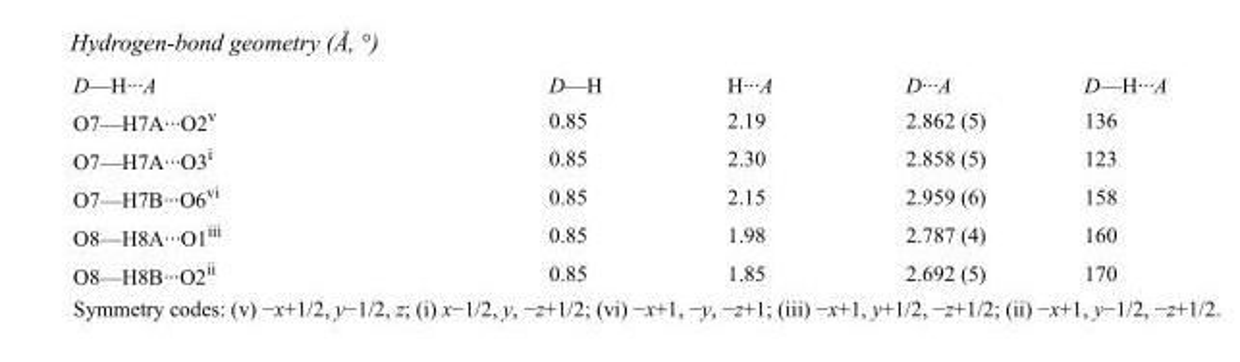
<table><tbody><tr><td>D—H···A</td><td>D—H</td><td>H···A</td><td>D···A</td><td>D—H···A</td></tr><tr><td>O7—H7A···O2<sup>v</sup></td><td>0.85</td><td>2.19</td><td>2.862 (5)</td><td>136</td></tr><tr><td>O7—H7A···O3<sup>i</sup></td><td>0.85</td><td>2.30</td><td>2.858 (5)</td><td>123</td></tr><tr><td>O7—H7B···O6<sup>vi</sup></td><td>0.85</td><td>2.15</td><td>2.959 (6)</td><td>158</td></tr><tr><td>O8—H8A···O1<sup>iii</sup></td><td>0.85</td><td>1.98</td><td>2.787 (4)</td><td>160</td></tr><tr><td>O8—H8B···O2<sup>ii</sup></td><td>0.85</td><td>1.85</td><td>2.692 (5)</td><td>170</td></tr></tbody></table>